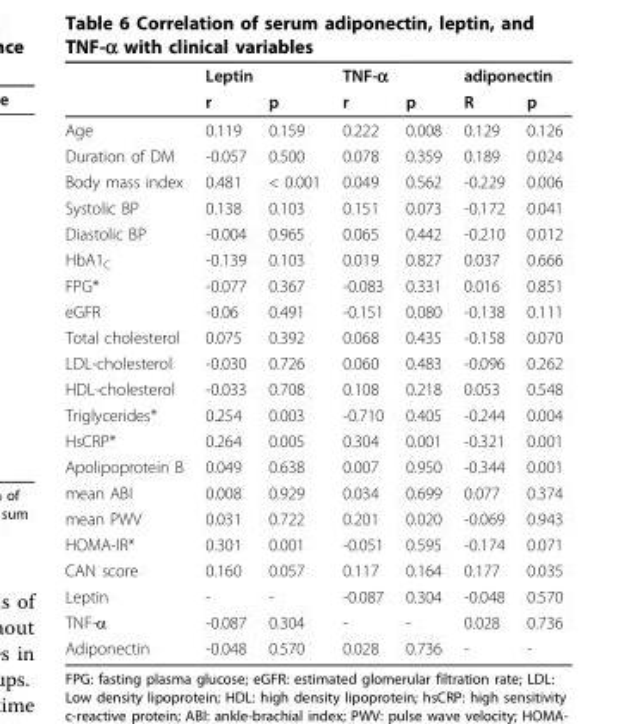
<table><thead><tr><td rowspan="2"></td><td colspan="2">Leptin</td><td colspan="2">TNF-α</td><td colspan="2">adiponectin</td></tr><tr><td>r</td><td>p</td><td>r</td><td>p</td><td>R</td><td>p</td></tr></thead><tbody><tr><td>Age</td><td>0.119</td><td>0.159</td><td>0.222</td><td>0.008</td><td>0.129</td><td>0.126</td></tr><tr><td>Duration of DM</td><td>-0.057</td><td>0.500</td><td>0.078</td><td>0.359</td><td>0.189</td><td>0.024</td></tr><tr><td>Body mass index</td><td>0.481</td><td>&lt; 0.001</td><td>0.049</td><td>0.562</td><td>-0.229</td><td>0.006</td></tr><tr><td>Systolic BP</td><td>0.138</td><td>0.103</td><td>0.151</td><td>0.073</td><td>-0.172</td><td>0.041</td></tr><tr><td>Diastolic BP</td><td>-0.004</td><td>0.965</td><td>0.065</td><td>0.442</td><td>-0.210</td><td>0.012</td></tr><tr><td>HbA1<sub>C</sub></td><td>-0.139</td><td>0.103</td><td>0.019</td><td>0.827</td><td>0.037</td><td>0.666</td></tr><tr><td>FPG*</td><td>-0.077</td><td>0.367</td><td>-0.083</td><td>0.331</td><td>0.016</td><td>0.851</td></tr><tr><td>eGFR</td><td>-0.06</td><td>0.491</td><td>-0.151</td><td>0.080</td><td>-0.138</td><td>0.111</td></tr><tr><td>Total cholesterol</td><td>0.075</td><td>0.392</td><td>0.068</td><td>0.435</td><td>-0.158</td><td>0.070</td></tr><tr><td>LDL-cholesterol</td><td>-0.030</td><td>0.726</td><td>0.060</td><td>0.483</td><td>-0.096</td><td>0.262</td></tr><tr><td>HDL-cholesterol</td><td>-0.033</td><td>0.708</td><td>0.108</td><td>0.218</td><td>0.053</td><td>0.548</td></tr><tr><td>Triglycerides*</td><td>0.254</td><td>0.003</td><td>-0.710</td><td>0.405</td><td>-0.244</td><td>0.004</td></tr><tr><td>HsCRP*</td><td>0.264</td><td>0.005</td><td>0.304</td><td>0.001</td><td>-0.321</td><td>0.001</td></tr><tr><td>Apolipoprotein B</td><td>0.049</td><td>0.638</td><td>0.007</td><td>0.950</td><td>-0.344</td><td>0.001</td></tr><tr><td>mean ABI</td><td>0.008</td><td>0.929</td><td>0.034</td><td>0.699</td><td>0.077</td><td>0.374</td></tr><tr><td>mean PWV</td><td>0.031</td><td>0.722</td><td>0.201</td><td>0.020</td><td>-0.069</td><td>0.943</td></tr><tr><td>HOMA-IR*</td><td>0.301</td><td>0.001</td><td>-0.051</td><td>0.595</td><td>-0.174</td><td>0.071</td></tr><tr><td>CAN score</td><td>0.160</td><td>0.057</td><td>0.117</td><td>0.164</td><td>0.177</td><td>0.035</td></tr><tr><td>Leptin</td><td>-</td><td>-</td><td>-0.087</td><td>0.304</td><td>-0.048</td><td>0.570</td></tr><tr><td>TNF-α</td><td>-0.087</td><td>0.304</td><td>-</td><td>-</td><td>0.028</td><td>0.736</td></tr><tr><td>Adiponectin</td><td>-0.048</td><td>0.570</td><td>0.028</td><td>0.736</td><td>-</td><td>-</td></tr></tbody></table>